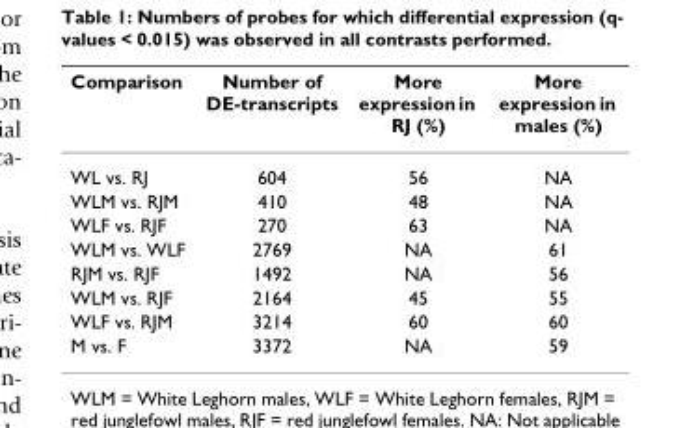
<table><thead><tr><td>Comparison</td><td>Number of DE-transcripts</td><td>More expression in RJ (%)</td><td>More expression in males (%)</td></tr></thead><tbody><tr><td>WL vs. RJ</td><td>604</td><td>56</td><td>NA</td></tr><tr><td>WLM vs. RJM</td><td>410</td><td>48</td><td>NA</td></tr><tr><td>WLF vs. RJF</td><td>270</td><td>63</td><td>NA</td></tr><tr><td>WLM vs. WLF</td><td>2769</td><td>NA</td><td>61</td></tr><tr><td>RJM vs. RJF</td><td>1492</td><td>NA</td><td>56</td></tr><tr><td>WLM vs. RJF</td><td>2164</td><td>45</td><td>55</td></tr><tr><td>WLF vs. RJM</td><td>3214</td><td>60</td><td>60</td></tr><tr><td>M vs. F</td><td>3372</td><td>NA</td><td>59</td></tr></tbody></table>